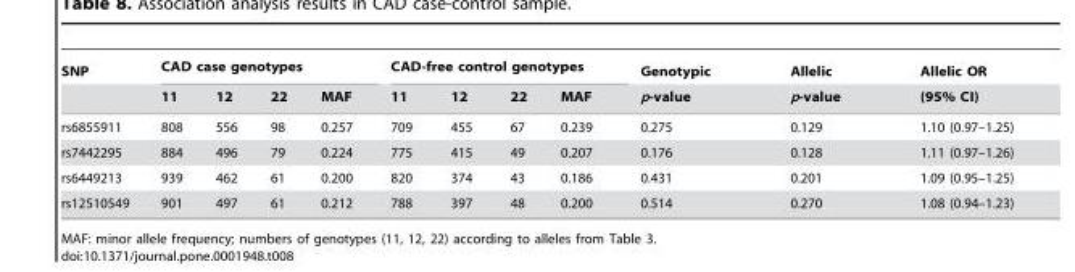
<table><thead><tr><td rowspan="2">SNP</td><td colspan="4">CAD case genotypes</td><td colspan="4">CAD-free control genotypes</td><td rowspan="2">Genotypic p-value</td><td rowspan="2">Allelic p-value</td><td rowspan="2">Allelic OR (95% CI)</td></tr><tr><td>11</td><td>12</td><td>22</td><td>MAF</td><td>11</td><td>12</td><td>22</td><td>MAF</td></tr></thead><tbody><tr><td>rs6855911</td><td>808</td><td>556</td><td>98</td><td>0.257</td><td>709</td><td>455</td><td>67</td><td>0.239</td><td>0.275</td><td>0.129</td><td>1.10 (0.97–1.25)</td></tr><tr><td>rs7442295</td><td>884</td><td>496</td><td>79</td><td>0.224</td><td>775</td><td>415</td><td>49</td><td>0.207</td><td>0.176</td><td>0.128</td><td>1.11 (0.97–1.26)</td></tr><tr><td>rs6449213</td><td>939</td><td>462</td><td>61</td><td>0.200</td><td>820</td><td>374</td><td>43</td><td>0.186</td><td>0.431</td><td>0.201</td><td>1.09 (0.95–1.25)</td></tr><tr><td>rs12510549</td><td>901</td><td>497</td><td>61</td><td>0.212</td><td>788</td><td>397</td><td>48</td><td>0.200</td><td>0.514</td><td>0.270</td><td>1.08 (0.94–1.23)</td></tr></tbody></table>